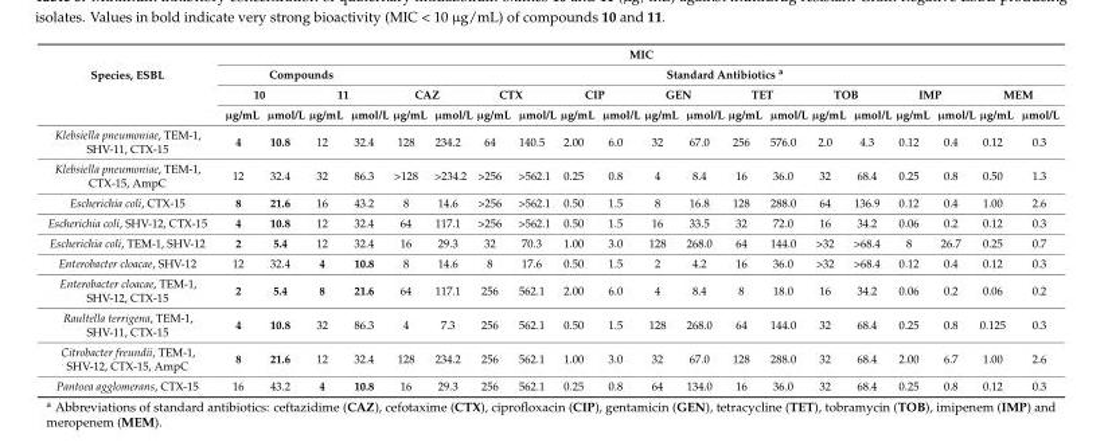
<table><thead><tr><td rowspan="4">Species, ESBL</td><td colspan="20">MIC</td></tr><tr><td colspan="4">Compounds</td><td colspan="16">Standard Antibiotics a</td></tr><tr><td colspan="2">10</td><td colspan="2">11</td><td colspan="2">CAZ</td><td colspan="2">CTX</td><td colspan="2">CIP</td><td colspan="2">GEN</td><td colspan="2">TET</td><td colspan="2">TOB</td><td colspan="2">IMP</td><td colspan="2">MEM</td></tr><tr><td>µg/mL</td><td>µmol/L</td><td>µg/mL</td><td>µmol/L</td><td>µg/mL</td><td>µmol/L</td><td>µg/mL</td><td>µmol/L</td><td>µg/mL</td><td>µmol/L</td><td>µg/mL</td><td>µmol/L</td><td>µg/mL</td><td>µmol/L</td><td>µg/mL</td><td>µmol/L</td><td>µg/mL</td><td>µmol/L</td><td>µg/mL</td><td>µmol/L</td></tr></thead><tbody><tr><td>Klebsiella pneumoniae, TEM-1, SHV-11, CTX-15</td><td>4</td><td>10.8</td><td>12</td><td>32.4</td><td>128</td><td>234.2</td><td>64</td><td>140.5</td><td>2.00</td><td>6.0</td><td>32</td><td>67.0</td><td>256</td><td>576.0</td><td>2.0</td><td>4.3</td><td>0.12</td><td>0.4</td><td>0.12</td><td>0.3</td></tr><tr><td>Klebsiella pneumoniae, TEM-1, CTX-15, AmpC</td><td>12</td><td>32.4</td><td>32</td><td>86.3</td><td>&gt;128</td><td>&gt;234.2</td><td>&gt;256</td><td>&gt;562.1</td><td>0.25</td><td>0.8</td><td>4</td><td>8.4</td><td>16</td><td>36.0</td><td>32</td><td>68.4</td><td>0.25</td><td>0.8</td><td>0.50</td><td>1.3</td></tr><tr><td>Escherichia coli, CTX-15</td><td>8</td><td>21.6</td><td>16</td><td>43.2</td><td>8</td><td>14.6</td><td>&gt;256</td><td>&gt;562.1</td><td>0.50</td><td>1.5</td><td>8</td><td>16.8</td><td>128</td><td>288.0</td><td>64</td><td>136.9</td><td>0.12</td><td>0.4</td><td>1.00</td><td>2.6</td></tr><tr><td>Escherichia coli, SHV-12, CTX-15</td><td>4</td><td>10.8</td><td>12</td><td>32.4</td><td>64</td><td>117.1</td><td>&gt;256</td><td>&gt;562.1</td><td>0.50</td><td>1.5</td><td>16</td><td>33.5</td><td>32</td><td>72.0</td><td>16</td><td>34.2</td><td>0.06</td><td>0.2</td><td>0.12</td><td>0.3</td></tr><tr><td>Escherichia coli, TEM-1, SHV-12</td><td>2</td><td>5.4</td><td>12</td><td>32.4</td><td>16</td><td>29.3</td><td>32</td><td>70.3</td><td>1.00</td><td>3.0</td><td>128</td><td>268.0</td><td>64</td><td>144.0</td><td>&gt;32</td><td>&gt;68.4</td><td>8</td><td>26.7</td><td>0.25</td><td>0.7</td></tr><tr><td>Enterobacter cloacae, SHV-12</td><td>12</td><td>32.4</td><td>4</td><td>10.8</td><td>8</td><td>14.6</td><td>8</td><td>17.6</td><td>0.50</td><td>1.5</td><td>2</td><td>4.2</td><td>16</td><td>36.0</td><td>&gt;32</td><td>&gt;68.4</td><td>0.12</td><td>0.4</td><td>0.12</td><td>0.3</td></tr><tr><td>Enterobacter cloacae, TEM-1, SHV-12, CTX-15</td><td>2</td><td>5.4</td><td>8</td><td>21.6</td><td>64</td><td>117.1</td><td>256</td><td>562.1</td><td>2.00</td><td>6.0</td><td>4</td><td>8.4</td><td>8</td><td>18.0</td><td>16</td><td>34.2</td><td>0.06</td><td>0.2</td><td>0.06</td><td>0.2</td></tr><tr><td>Raultella terrigena, TEM-1, SHV-11, CTX-15</td><td>4</td><td>10.8</td><td>32</td><td>86.3</td><td>4</td><td>7.3</td><td>256</td><td>562.1</td><td>0.50</td><td>1.5</td><td>128</td><td>268.0</td><td>64</td><td>144.0</td><td>32</td><td>68.4</td><td>0.25</td><td>0.8</td><td>0.125</td><td>0.3</td></tr><tr><td>Citrobacter freundii, TEM-1, SHV-12, CTX-15, AmpC</td><td>8</td><td>21.6</td><td>12</td><td>32.4</td><td>128</td><td>234.2</td><td>256</td><td>562.1</td><td>1.00</td><td>3.0</td><td>32</td><td>67.0</td><td>128</td><td>288.0</td><td>32</td><td>68.4</td><td>2.00</td><td>6.7</td><td>1.00</td><td>2.6</td></tr><tr><td>Pantoea agglomerans, CTX-15</td><td>16</td><td>43.2</td><td>4</td><td>10.8</td><td>16</td><td>29.3</td><td>256</td><td>562.1</td><td>0.25</td><td>0.8</td><td>64</td><td>134.0</td><td>16</td><td>36.0</td><td>32</td><td>68.4</td><td>0.25</td><td>0.8</td><td>0.12</td><td>0.3</td></tr></tbody></table>